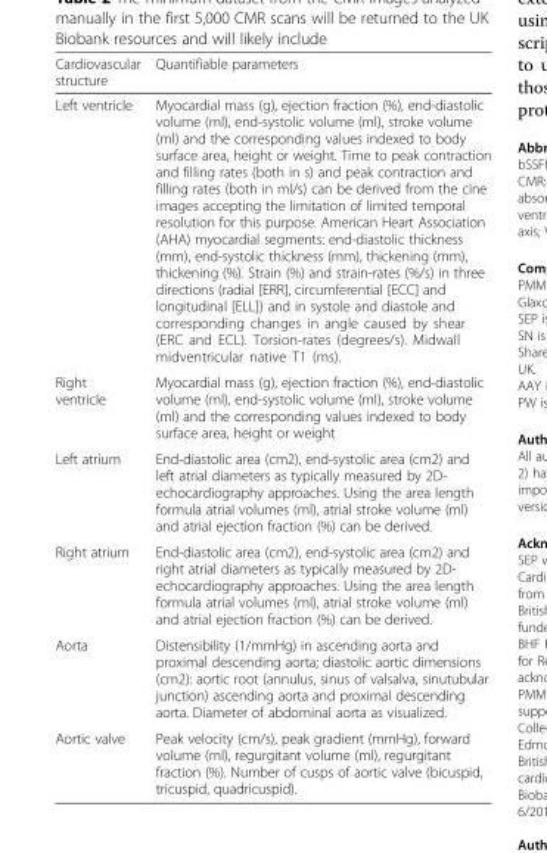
<table><thead><tr><td>Cardiovascular structure</td><td>Quantifiable parameters</td></tr></thead><tbody><tr><td>Left ventricle</td><td>Myocardial mass (g), ejection fraction (%), end-diastolic volume (ml), end-systolic volume (ml), stroke volume (ml) and the corresponding values indexed to body surface area, height or weight. Time to peak contraction and filling rates (both in s) and peak contraction and filling rates (both in ml/s) can be derived from the cine images accepting the limitation of limited temporal resolution for this purpose. American Heart Association (AHA) myocardial segments: end-diastolic thickness (mm), end-systolic thickness (mm), thickening (mm), thickening (%). Strain (%) and strain-rates (%/s) in three directions (radial [ERR], circumferential [ECC] and longitudinal [ELL]) and in systole and diastole and corresponding changes in angle caused by shear (ERC and ECL). Torsion-rates (degrees/s). Midwall midventricular native T1 (ms).</td></tr><tr><td>Right ventricle</td><td>Myocardial mass (g), ejection fraction (%), end-diastolic volume (ml), end-systolic volume (ml), stroke volume (ml) and the corresponding values indexed to body surface area, height or weight</td></tr><tr><td>Left atrium</td><td>End-diastolic area (cm2), end-systolic area (cm2) and left atrial diameters as typically measured by 2D- echocardiography approaches. Using the area length formula atrial volumes (ml), atrial stroke volume (ml) and atrial ejection fraction (%) can be derived.</td></tr><tr><td>Right atrium</td><td>End-diastolic area (cm2), end-systolic area (cm2) and right atrial diameters as typically measured by 2D- echocardiography approaches. Using the area length formula atrial volumes (ml), atrial stroke volume (ml) and atrial ejection fraction (%) can be derived.</td></tr><tr><td>Aorta</td><td>Distensibility (1/mmHg) in ascending aorta and proximal descending aorta; diastolic aortic dimensions (cm2): aortic root (annulus, sinus of valsalva, sinutubular junction) ascending aorta and proximal descending aorta. Diameter of abdominal aorta as visualized.</td></tr><tr><td>Aortic valve</td><td>Peak velocity (cm/s), peak gradient (mmHg), forward volume (ml), regurgitant volume (ml), regurgitant fraction (%). Number of cusps of aortic valve (bicuspid, tricuspid, quadricuspid).</td></tr></tbody></table>